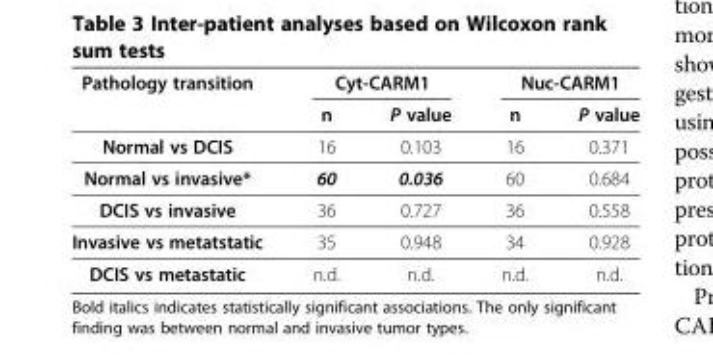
<table><thead><tr><td rowspan="2">Pathology transition</td><td colspan="2">Cyt-CARM1</td><td colspan="2">Nuc-CARM1</td></tr><tr><td>n</td><td>P value</td><td>n</td><td>P value</td></tr></thead><tbody><tr><td>Normal vs DCIS</td><td>16</td><td>0.103</td><td>16</td><td>0.371</td></tr><tr><td>Normal vs invasive*</td><td>60</td><td>0.036</td><td>60</td><td>0.684</td></tr><tr><td>DCIS vs invasive</td><td>36</td><td>0.727</td><td>36</td><td>0.558</td></tr><tr><td>Invasive vs metatstatic</td><td>35</td><td>0.948</td><td>34</td><td>0.928</td></tr><tr><td>DCIS vs metastatic</td><td>n.d.</td><td>n.d.</td><td>n.d.</td><td>n.d.</td></tr></tbody></table>